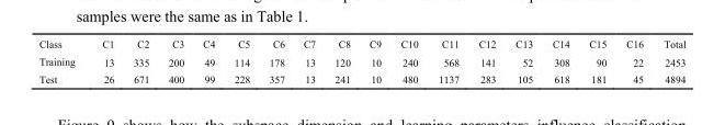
<table><thead><tr><td>Class</td><td>C1</td><td>C2</td><td>C3</td><td>C4</td><td>C5</td><td>C6</td><td>C7</td><td>C8</td><td>C9</td><td>C10</td><td>C11</td><td>C12</td><td>C13</td><td>C14</td><td>C15</td><td>C16</td><td>Total</td></tr></thead><tbody><tr><td>Training</td><td>13</td><td>335</td><td>200</td><td>49</td><td>114</td><td>178</td><td>13</td><td>120</td><td>10</td><td>240</td><td>568</td><td>141</td><td>52</td><td>308</td><td>90</td><td>22</td><td>2453</td></tr><tr><td>Test</td><td>26</td><td>671</td><td>400</td><td>99</td><td>228</td><td>357</td><td>13</td><td>241</td><td>10</td><td>480</td><td>1137</td><td>283</td><td>105</td><td>618</td><td>181</td><td>45</td><td>4894</td></tr></tbody></table>